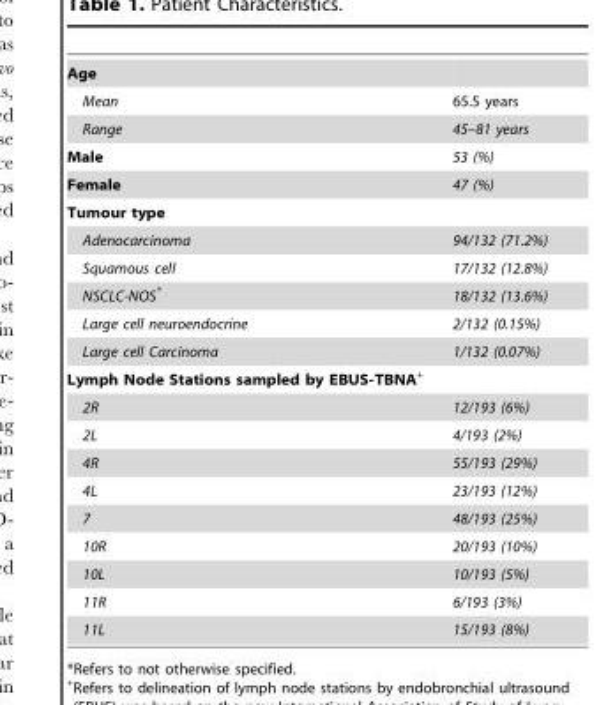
<table><tbody><tr><td colspan="2">Age</td></tr><tr><td>Mean</td><td>65.5 years</td></tr><tr><td>Range</td><td>45–81 years</td></tr><tr><td>Male</td><td>53 (%)</td></tr><tr><td>Female</td><td>47 (%)</td></tr><tr><td colspan="2">Tumour type</td></tr><tr><td>Adenocarcinoma</td><td>94/132 (71.2%)</td></tr><tr><td>Squamous cell</td><td>17/132 (12.8%)</td></tr><tr><td>NSCLC-NOS*</td><td>18/132 (13.6%)</td></tr><tr><td>Large cell neuroendocrine</td><td>2/132 (0.15%)</td></tr><tr><td>Large cell Carcinoma</td><td>1/132 (0.07%)</td></tr><tr><td colspan="2">Lymph Node Stations sampled by EBUS-TBNA+</td></tr><tr><td>2R</td><td>12/193 (6%)</td></tr><tr><td>2L</td><td>4/193 (2%)</td></tr><tr><td>4R</td><td>55/193 (29%)</td></tr><tr><td>4L</td><td>23/193 (12%)</td></tr><tr><td>7</td><td>48/193 (25%)</td></tr><tr><td>10R</td><td>20/193 (10%)</td></tr><tr><td>10L</td><td>10/193 (5%)</td></tr><tr><td>11R</td><td>6/193 (3%)</td></tr><tr><td>11L</td><td>15/193 (8%)</td></tr></tbody></table>